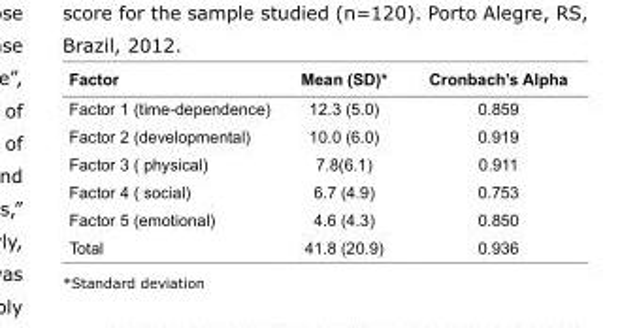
<table><thead><tr><td>Factor</td><td>Mean (SD)*</td><td>Cronbach’s Alpha</td></tr></thead><tbody><tr><td>Factor 1 (time-dependence)</td><td>12.3 (5.0)</td><td>0.859</td></tr><tr><td>Factor 2 (developmental)</td><td>10.0 (6.0)</td><td>0.919</td></tr><tr><td>Factor 3 ( physical)</td><td>7.8(6.1)</td><td>0.911</td></tr><tr><td>Factor 4 ( social)</td><td>6.7 (4.9)</td><td>0.753</td></tr><tr><td>Factor 5 (emotional)</td><td>4.6 (4.3)</td><td>0.850</td></tr><tr><td>Total</td><td>41.8 (20.9)</td><td>0.936</td></tr></tbody></table>